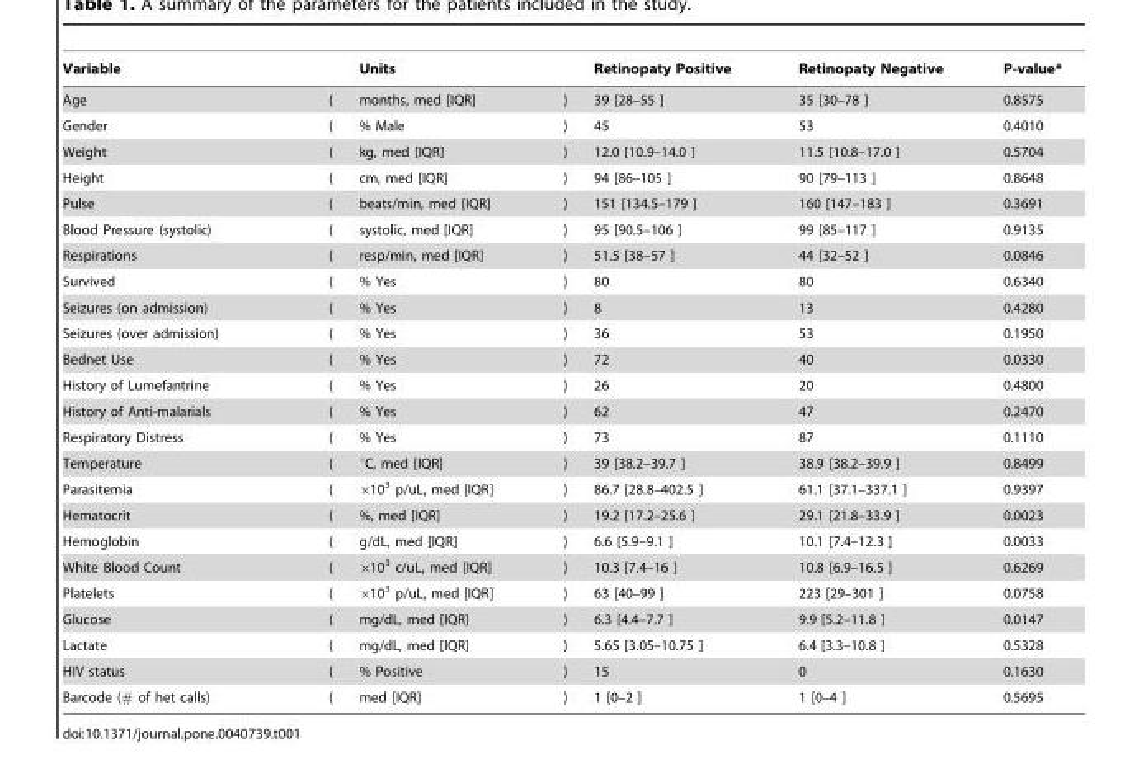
<table><thead><tr><td>Variable</td><td></td><td>Units</td><td></td><td>Retinopaty Positive</td><td>Retinopaty Negative</td><td>P-value*</td></tr></thead><tbody><tr><td>Age</td><td>(</td><td>months, med [IQR]</td><td>)</td><td>39 [28–55 ]</td><td>35 [30–78 ]</td><td>0.8575</td></tr><tr><td>Gender</td><td>(</td><td>% Male</td><td>)</td><td>45</td><td>53</td><td>0.4010</td></tr><tr><td>Weight</td><td>(</td><td>kg, med [IQR]</td><td>)</td><td>12.0 [10.9–14.0 ]</td><td>11.5 [10.8–17.0 ]</td><td>0.5704</td></tr><tr><td>Height</td><td>(</td><td>cm, med [IQR]</td><td>)</td><td>94 [86–105 ]</td><td>90 [79–113 ]</td><td>0.8648</td></tr><tr><td>Pulse</td><td>(</td><td>beats/min, med [IQR]</td><td>)</td><td>151 [134.5–179 ]</td><td>160 [147–183 ]</td><td>0.3691</td></tr><tr><td>Blood Pressure (systolic)</td><td>(</td><td>systolic, med [IQR]</td><td>)</td><td>95 [90.5–106 ]</td><td>99 [85–117 ]</td><td>0.9135</td></tr><tr><td>Respirations</td><td>(</td><td>resp/min, med [IQR]</td><td>)</td><td>51.5 [38–57 ]</td><td>44 [32–52 ]</td><td>0.0846</td></tr><tr><td>Survived</td><td>(</td><td>% Yes</td><td>)</td><td>80</td><td>80</td><td>0.6340</td></tr><tr><td>Seizures (on admission)</td><td>(</td><td>% Yes</td><td>)</td><td>8</td><td>13</td><td>0.4280</td></tr><tr><td>Seizures (over admission)</td><td>(</td><td>% Yes</td><td>)</td><td>36</td><td>53</td><td>0.1950</td></tr><tr><td>Bednet Use</td><td>(</td><td>% Yes</td><td>)</td><td>72</td><td>40</td><td>0.0330</td></tr><tr><td>History of Lumefantrine</td><td>(</td><td>% Yes</td><td>)</td><td>26</td><td>20</td><td>0.4800</td></tr><tr><td>History of Anti-malarials</td><td>(</td><td>% Yes</td><td>)</td><td>62</td><td>47</td><td>0.2470</td></tr><tr><td>Respiratory Distress</td><td>(</td><td>% Yes</td><td>)</td><td>73</td><td>87</td><td>0.1110</td></tr><tr><td>Temperature</td><td>(</td><td>°C, med [IQR]</td><td>)</td><td>39 [38.2–39.7 ]</td><td>38.9 [38.2–39.9 ]</td><td>0.8499</td></tr><tr><td>Parasitemia</td><td>(</td><td>×10<sup>3</sup> p/uL, med [IQR]</td><td>)</td><td>86.7 [28.8–402.5 ]</td><td>61.1 [37.1–337.1 ]</td><td>0.9397</td></tr><tr><td>Hematocrit</td><td>(</td><td>%, med [IQR]</td><td>)</td><td>19.2 [17.2–25.6 ]</td><td>29.1 [21.8–33.9 ]</td><td>0.0023</td></tr><tr><td>Hemoglobin</td><td>(</td><td>g/dL, med [IQR]</td><td>)</td><td>6.6 [5.9–9.1 ]</td><td>10.1 [7.4–12.3 ]</td><td>0.0033</td></tr><tr><td>White Blood Count</td><td>(</td><td>×10<sup>3</sup> c/uL, med [IQR]</td><td>)</td><td>10.3 [7.4–16 ]</td><td>10.8 [6.9–16.5 ]</td><td>0.6269</td></tr><tr><td>Platelets</td><td>(</td><td>×10<sup>3</sup> p/uL, med [IQR]</td><td>)</td><td>63 [40–99 ]</td><td>223 [29–301 ]</td><td>0.0758</td></tr><tr><td>Glucose</td><td>(</td><td>mg/dL, med [IQR]</td><td>)</td><td>6.3 [4.4–7.7 ]</td><td>9.9 [5.2–11.8 ]</td><td>0.0147</td></tr><tr><td>Lactate</td><td>(</td><td>mg/dL, med [IQR]</td><td>)</td><td>5.65 [3.05–10.75 ]</td><td>6.4 [3.3–10.8 ]</td><td>0.5328</td></tr><tr><td>HIV status</td><td>(</td><td>% Positive</td><td>)</td><td>15</td><td>0</td><td>0.1630</td></tr><tr><td>Barcode (# of het calls)</td><td>(</td><td>med [IQR]</td><td>)</td><td>1 [0–2 ]</td><td>1 [0–4 ]</td><td>0.5695</td></tr></tbody></table>